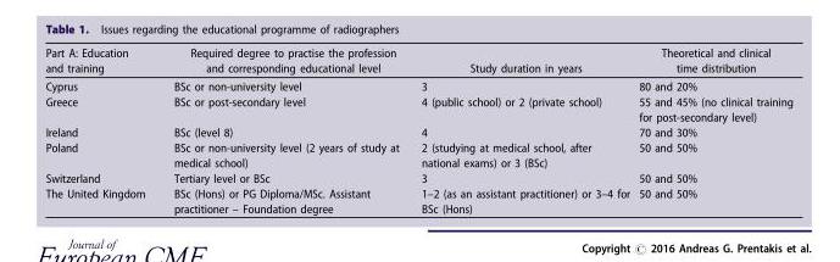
<table><thead><tr><td>Part A: Education and training</td><td>Required degree to practise the profession and corresponding educational level</td><td>Study duration in years</td><td>Theoretical and clinical time distribution</td></tr></thead><tbody><tr><td>Cyprus</td><td>BSc or non-university level</td><td>3</td><td>80 and 20%</td></tr><tr><td>Greece</td><td>BSc or post-secondary level</td><td>4 (public school) or 2 (private school)</td><td>55 and 45% (no clinical training for post-secondary level)</td></tr><tr><td>Ireland</td><td>BSc (level 8)</td><td>4</td><td>70 and 30%</td></tr><tr><td>Poland</td><td>BSc or non-university level (2 years of study at medical school)</td><td>2 (studying at medical school, after national exams) or 3 (BSc)</td><td>50 and 50%</td></tr><tr><td>Switzerland</td><td>Tertiary level or BSc</td><td>3</td><td>50 and 50%</td></tr><tr><td>The United Kingdom</td><td>BSc (Hons) or PG Diploma/MSc. Assistant practitioner – Foundation degree</td><td>1–2 (as an assistant practitioner) or 3–4 for BSc (Hons)</td><td>50 and 50%</td></tr></tbody></table>